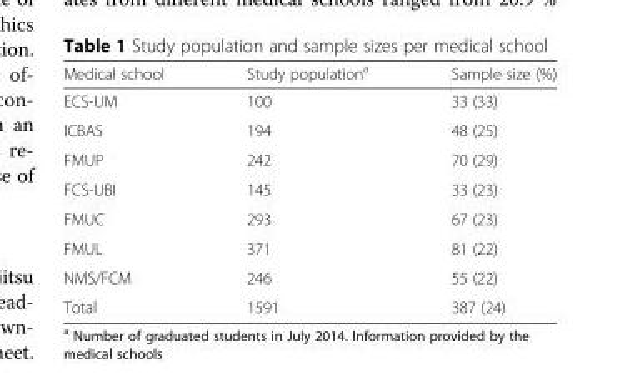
<table><thead><tr><td>Medical school</td><td>Study population<sup>a</sup></td><td>Sample size (%)</td></tr></thead><tbody><tr><td>ECS-UM</td><td>100</td><td>33 (33)</td></tr><tr><td>ICBAS</td><td>194</td><td>48 (25)</td></tr><tr><td>FMUP</td><td>242</td><td>70 (29)</td></tr><tr><td>FCS-UBI</td><td>145</td><td>33 (23)</td></tr><tr><td>FMUC</td><td>293</td><td>67 (23)</td></tr><tr><td>FMUL</td><td>371</td><td>81 (22)</td></tr><tr><td>NMS/FCM</td><td>246</td><td>55 (22)</td></tr><tr><td>Total</td><td>1591</td><td>387 (24)</td></tr></tbody></table>